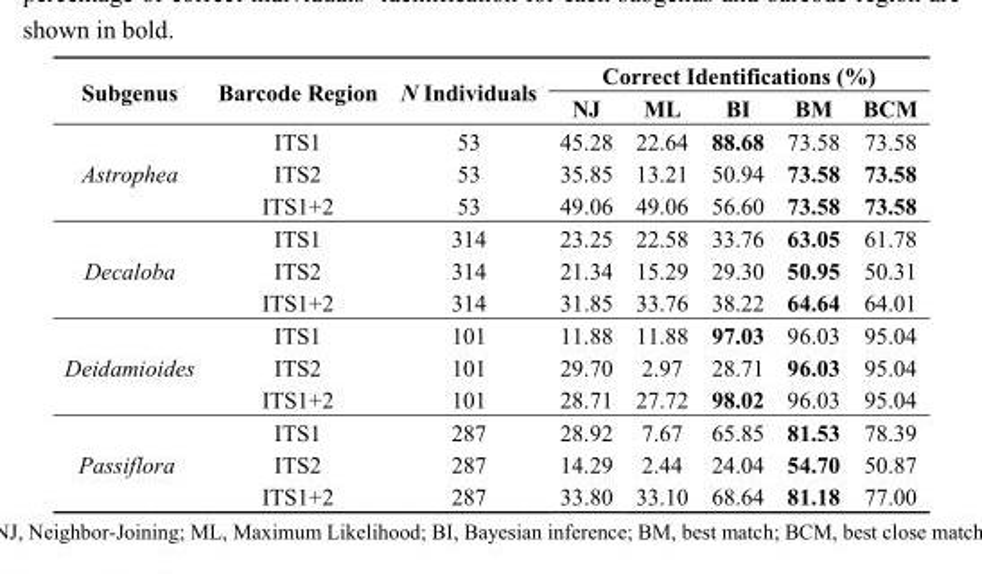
<table><thead><tr><td rowspan="2">Subgenus</td><td rowspan="2">Barcode Region</td><td rowspan="2">N Individuals</td><td colspan="5">Correct Identifications (%)</td></tr><tr><td>NJ</td><td>ML</td><td>BI</td><td>BM</td><td>BCM</td></tr></thead><tbody><tr><td rowspan="3">Astrophea</td><td>ITS1</td><td>53</td><td>45.28</td><td>22.64</td><td>88.68</td><td>73.58</td><td>73.58</td></tr><tr><td>ITS2</td><td>53</td><td>35.85</td><td>13.21</td><td>50.94</td><td>73.58</td><td>73.58</td></tr><tr><td>ITS1+2</td><td>53</td><td>49.06</td><td>49.06</td><td>56.60</td><td>73.58</td><td>73.58</td></tr><tr><td rowspan="3">Decaloba</td><td>ITS1</td><td>314</td><td>23.25</td><td>22.58</td><td>33.76</td><td>63.05</td><td>61.78</td></tr><tr><td>ITS2</td><td>314</td><td>21.34</td><td>15.29</td><td>29.30</td><td>50.95</td><td>50.31</td></tr><tr><td>ITS1+2</td><td>314</td><td>31.85</td><td>33.76</td><td>38.22</td><td>64.64</td><td>64.01</td></tr><tr><td rowspan="3">Deidamioides</td><td>ITS1</td><td>101</td><td>11.88</td><td>11.88</td><td>97.03</td><td>96.03</td><td>95.04</td></tr><tr><td>ITS2</td><td>101</td><td>29.70</td><td>2.97</td><td>28.71</td><td>96.03</td><td>95.04</td></tr><tr><td>ITS1+2</td><td>101</td><td>28.71</td><td>27.72</td><td>98.02</td><td>96.03</td><td>95.04</td></tr><tr><td rowspan="3">Passiflora</td><td>ITS1</td><td>287</td><td>28.92</td><td>7.67</td><td>65.85</td><td>81.53</td><td>78.39</td></tr><tr><td>ITS2</td><td>287</td><td>14.29</td><td>2.44</td><td>24.04</td><td>54.70</td><td>50.87</td></tr><tr><td>ITS1+2</td><td>287</td><td>33.80</td><td>33.10</td><td>68.64</td><td>81.18</td><td>77.00</td></tr></tbody></table>